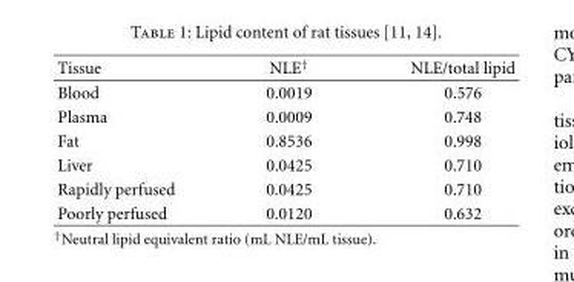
<table><thead><tr><td>Tissue</td><td>NLE<sup>†</sup></td><td>NLE/total lipid</td></tr></thead><tbody><tr><td>Blood</td><td>0.0019</td><td>0.576</td></tr><tr><td>Plasma</td><td>0.0009</td><td>0.748</td></tr><tr><td>Fat</td><td>0.8536</td><td>0.998</td></tr><tr><td>Liver</td><td>0.0425</td><td>0.710</td></tr><tr><td>Rapidly perfused</td><td>0.0425</td><td>0.710</td></tr><tr><td>Poorly perfused</td><td>0.0120</td><td>0.632</td></tr></tbody></table>